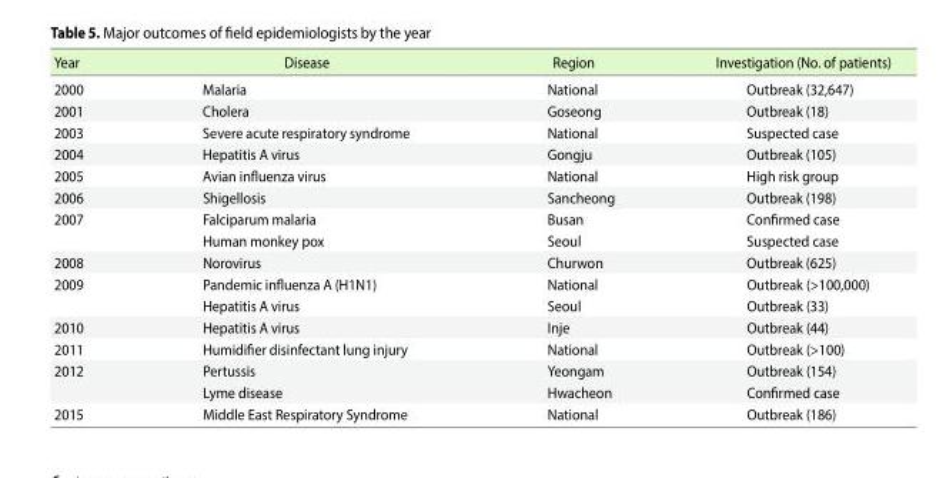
<table><thead><tr><td>Year</td><td>Disease</td><td>Region</td><td>Investigation (No. of patients)</td></tr></thead><tbody><tr><td>2000</td><td>Malaria</td><td>National</td><td>Outbreak (32,647)</td></tr><tr><td>2001</td><td>Cholera</td><td>Goseong</td><td>Outbreak (18)</td></tr><tr><td>2003</td><td>Severe acute respiratory syndrome</td><td>National</td><td>Suspected case</td></tr><tr><td>2004</td><td>Hepatitis A virus</td><td>Gongju</td><td>Outbreak (105)</td></tr><tr><td>2005</td><td>Avian influenza virus</td><td>National</td><td>High risk group</td></tr><tr><td>2006</td><td>Shigellosis</td><td>Sancheong</td><td>Outbreak (198)</td></tr><tr><td rowspan="2">2007</td><td>Falciparum malaria</td><td>Busan</td><td>Confirmed case</td></tr><tr><td>Human monkey pox</td><td>Seoul</td><td>Suspected case</td></tr><tr><td>2008</td><td>Norovirus</td><td>Churwon</td><td>Outbreak (625)</td></tr><tr><td rowspan="2">2009</td><td>Pandemic influenza A (H1N1)</td><td>National</td><td>Outbreak (&gt;100,000)</td></tr><tr><td>Hepatitis A virus</td><td>Seoul</td><td>Outbreak (33)</td></tr><tr><td>2010</td><td>Hepatitis A virus</td><td>Inje</td><td>Outbreak (44)</td></tr><tr><td>2011</td><td>Humidifier disinfectant lung injury</td><td>National</td><td>Outbreak (&gt;100)</td></tr><tr><td rowspan="2">2012</td><td>Pertussis</td><td>Yeongam</td><td>Outbreak (154)</td></tr><tr><td>Lyme disease</td><td>Hwacheon</td><td>Confirmed case</td></tr><tr><td>2015</td><td>Middle East Respiratory Syndrome</td><td>National</td><td>Outbreak (186)</td></tr></tbody></table>